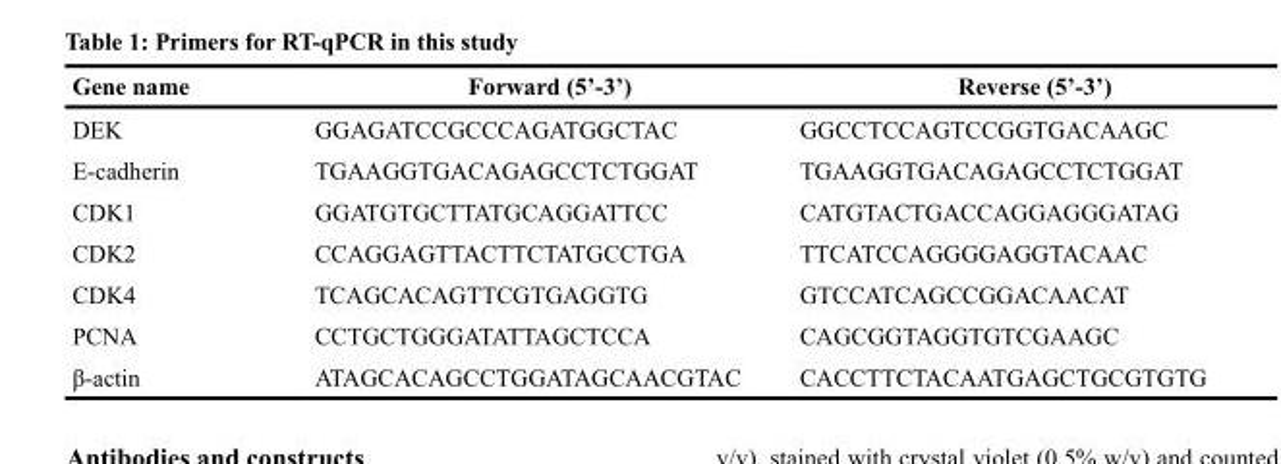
<table><thead><tr><td>Gene name</td><td>Forward (5’-3’)</td><td>Reverse (5’-3’)</td></tr></thead><tbody><tr><td>DEK</td><td>GGAGATCCGCCCAGATGGCTAC</td><td>GGCCTCCAGTCCGGTGACAAGC</td></tr><tr><td>E-cadherin</td><td>TGAAGGTGACAGAGCCTCTGGAT</td><td>TGAAGGTGACAGAGCCTCTGGAT</td></tr><tr><td>CDK1</td><td>GGATGTGCTTATGCAGGATTCC</td><td>CATGTACTGACCAGGAGGGATAG</td></tr><tr><td>CDK2</td><td>CCAGGAGTTACTTCTATGCCTGA</td><td>TTCATCCAGGGGAGGTACAAC</td></tr><tr><td>CDK4</td><td>TCAGCACAGTTCGTGAGGTG</td><td>GTCCATCAGCCGGACAACAT</td></tr><tr><td>PCNA</td><td>CCTGCTGGGATATTAGCTCCA</td><td>CAGCGGTAGGTGTCGAAGC</td></tr><tr><td>β-actin</td><td>ATAGCACAGCCTGGATAGCAACGTAC</td><td>CACCTTCTACAATGAGCTGCGTGTG</td></tr></tbody></table>